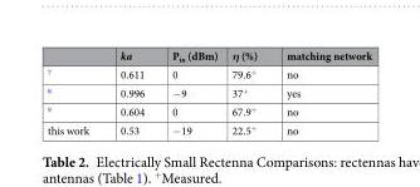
<table><thead><tr><td></td><td>ka</td><td>P<sub>in</sub> (dBm)</td><td>η (%)</td><td>matching network</td></tr></thead><tbody><tr><td><sup>7</sup></td><td>0.611</td><td>0</td><td>79.6<sup>+</sup></td><td>no</td></tr><tr><td><sup>8</sup></td><td>0.996</td><td>−9</td><td>37<sup>+</sup></td><td>yes</td></tr><tr><td><sup>9</sup></td><td>0.604</td><td>0</td><td>67.9<sup>+</sup></td><td>no</td></tr><tr><td>this work</td><td>0.53</td><td>−19</td><td>22.5<sup>+</sup></td><td>no</td></tr></tbody></table>